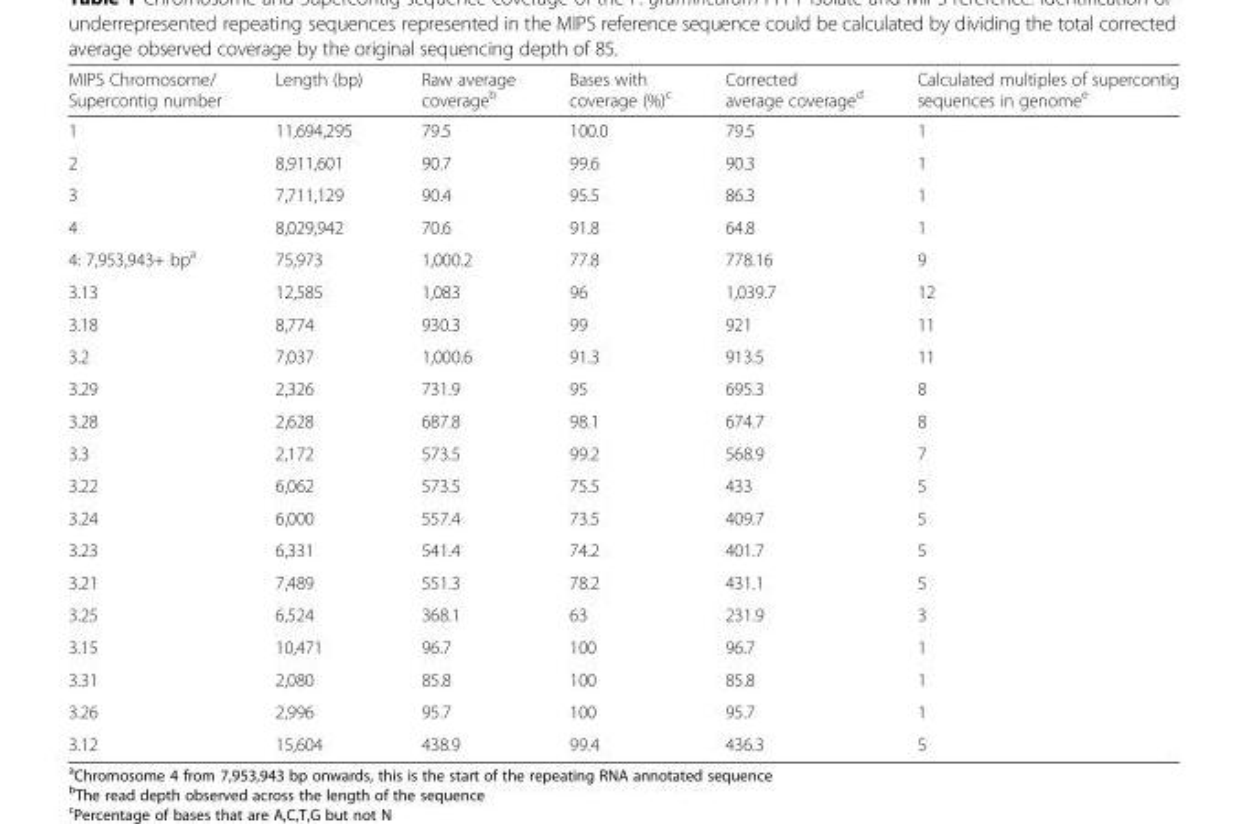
<table><thead><tr><td>MIPS Chromosome/ Supercontig number</td><td>Length (bp)</td><td>Raw average coverage<sup>b</sup></td><td>Bases with coverage (%)<sup>c</sup></td><td>Corrected average coverage<sup>d</sup></td><td>Calculated multiples of supercontig sequences in genome<sup>e</sup></td></tr></thead><tbody><tr><td>1</td><td>11,694,295</td><td>79.5</td><td>100.0</td><td>79.5</td><td>1</td></tr><tr><td>2</td><td>8,911,601</td><td>90.7</td><td>99.6</td><td>90.3</td><td>1</td></tr><tr><td>3</td><td>7,711,129</td><td>90.4</td><td>95.5</td><td>86.3</td><td>1</td></tr><tr><td>4</td><td>8,029,942</td><td>70.6</td><td>91.8</td><td>64.8</td><td>1</td></tr><tr><td>4: 7,953,943+ bp<sup>a</sup></td><td>75,973</td><td>1,000.2</td><td>77.8</td><td>778.16</td><td>9</td></tr><tr><td>3.13</td><td>12,585</td><td>1,083</td><td>96</td><td>1,039.7</td><td>12</td></tr><tr><td>3.18</td><td>8,774</td><td>930.3</td><td>99</td><td>921</td><td>11</td></tr><tr><td>3.2</td><td>7,037</td><td>1,000.6</td><td>91.3</td><td>913.5</td><td>11</td></tr><tr><td>3.29</td><td>2,326</td><td>731.9</td><td>95</td><td>695.3</td><td>8</td></tr><tr><td>3.28</td><td>2,628</td><td>687.8</td><td>98.1</td><td>674.7</td><td>8</td></tr><tr><td>3.3</td><td>2,172</td><td>573.5</td><td>99.2</td><td>568.9</td><td>7</td></tr><tr><td>3.22</td><td>6,062</td><td>573.5</td><td>75.5</td><td>433</td><td>5</td></tr><tr><td>3.24</td><td>6,000</td><td>557.4</td><td>73.5</td><td>409.7</td><td>5</td></tr><tr><td>3.23</td><td>6,331</td><td>541.4</td><td>74.2</td><td>401.7</td><td>5</td></tr><tr><td>3.21</td><td>7,489</td><td>551.3</td><td>78.2</td><td>431.1</td><td>5</td></tr><tr><td>3.25</td><td>6,524</td><td>368.1</td><td>63</td><td>231.9</td><td>3</td></tr><tr><td>3.15</td><td>10,471</td><td>96.7</td><td>100</td><td>96.7</td><td>1</td></tr><tr><td>3.31</td><td>2,080</td><td>85.8</td><td>100</td><td>85.8</td><td>1</td></tr><tr><td>3.26</td><td>2,996</td><td>95.7</td><td>100</td><td>95.7</td><td>1</td></tr><tr><td>3.12</td><td>15,604</td><td>438.9</td><td>99.4</td><td>436.3</td><td>5</td></tr></tbody></table>